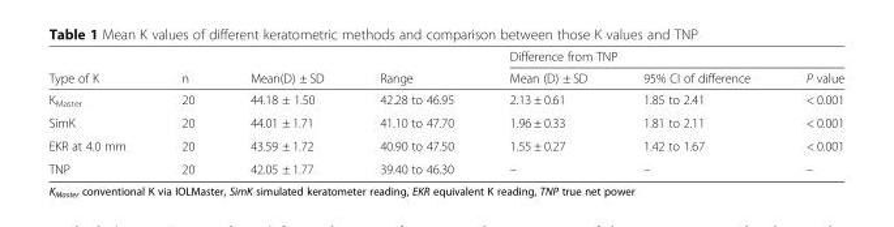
<table><thead><tr><td rowspan="2">Type of K</td><td rowspan="2">n</td><td rowspan="2">Mean(D) ± SD</td><td rowspan="2">Range</td><td colspan="3">Difference from TNP</td></tr><tr><td>Mean (D) ± SD</td><td>95% CI of difference</td><td>P value</td></tr></thead><tbody><tr><td>K<sub>Master</sub></td><td>20</td><td>44.18 ± 1.50</td><td>42.28 to 46.95</td><td>2.13 ± 0.61</td><td>1.85 to 2.41</td><td>&lt; 0.001</td></tr><tr><td>SimK</td><td>20</td><td>44.01 ± 1.71</td><td>41.10 to 47.70</td><td>1.96 ± 0.33</td><td>1.81 to 2.11</td><td>&lt; 0.001</td></tr><tr><td>EKR at 4.0 mm</td><td>20</td><td>43.59 ± 1.72</td><td>40.90 to 47.50</td><td>1.55 ± 0.27</td><td>1.42 to 1.67</td><td>&lt; 0.001</td></tr><tr><td>TNP</td><td>20</td><td>42.05 ± 1.77</td><td>39.40 to 46.30</td><td>–</td><td>–</td><td>–</td></tr></tbody></table>